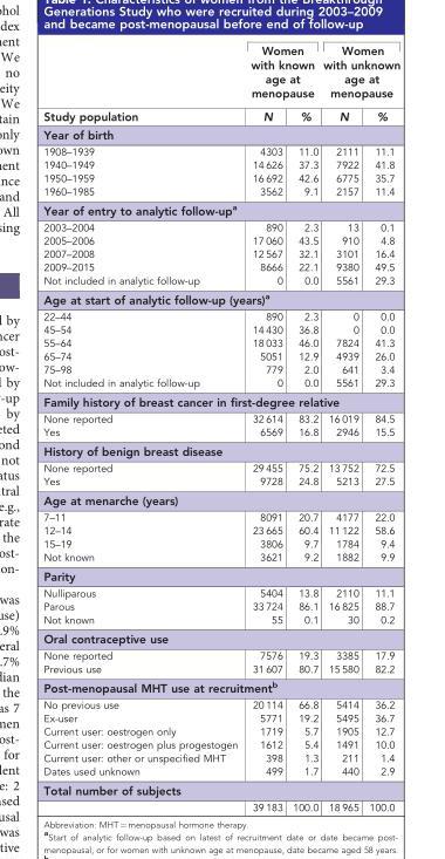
<table><thead><tr><td rowspan="2">Study population</td><td colspan="2">Women with known age at menopause</td><td colspan="2">Women with unknown age at menopause</td></tr><tr><td>N</td><td>%</td><td>N</td><td>%</td></tr></thead><tbody><tr><td colspan="5">Year of birth</td></tr><tr><td>1908–1939</td><td>4303</td><td>11.0</td><td>2111</td><td>11.1</td></tr><tr><td>1940–1949</td><td>14 626</td><td>37.3</td><td>7922</td><td>41.8</td></tr><tr><td>1950–1959</td><td>16 692</td><td>42.6</td><td>6775</td><td>35.7</td></tr><tr><td>1960–1985</td><td>3562</td><td>9.1</td><td>2157</td><td>11.4</td></tr><tr><td colspan="5">Year of entry to analytic follow-up<sup>a</sup></td></tr><tr><td>2003–2004</td><td>890</td><td>2.3</td><td>13</td><td>0.1</td></tr><tr><td>2005–2006</td><td>17 060</td><td>43.5</td><td>910</td><td>4.8</td></tr><tr><td>2007–2008</td><td>12 567</td><td>32.1</td><td>3101</td><td>16.4</td></tr><tr><td>2009–2015</td><td>8666</td><td>22.1</td><td>9380</td><td>49.5</td></tr><tr><td>Not included in analytic follow-up</td><td>0</td><td>0.0</td><td>5561</td><td>29.3</td></tr><tr><td colspan="5">Age at start of analytic follow-up (years)<sup>a</sup></td></tr><tr><td>22–44</td><td>890</td><td>2.3</td><td>0</td><td>0.0</td></tr><tr><td>45–54</td><td>14 430</td><td>36.8</td><td>0</td><td>0.0</td></tr><tr><td>55–64</td><td>18 033</td><td>46.0</td><td>7824</td><td>41.3</td></tr><tr><td>65–74</td><td>5051</td><td>12.9</td><td>4939</td><td>26.0</td></tr><tr><td>75–98</td><td>779</td><td>2.0</td><td>641</td><td>3.4</td></tr><tr><td>Not included in analytic follow-up</td><td>0</td><td>0.0</td><td>5561</td><td>29.3</td></tr><tr><td colspan="5">Family history of breast cancer in first-degree relative</td></tr><tr><td>None reported</td><td>32 614</td><td>83.2</td><td>16 019</td><td>84.5</td></tr><tr><td>Yes</td><td>6569</td><td>16.8</td><td>2946</td><td>15.5</td></tr><tr><td colspan="5">History of benign breast disease</td></tr><tr><td>None reported</td><td>29 455</td><td>75.2</td><td>13 752</td><td>72.5</td></tr><tr><td>Yes</td><td>9728</td><td>24.8</td><td>5213</td><td>27.5</td></tr><tr><td colspan="5">Age at menarche (years)</td></tr><tr><td>7–11</td><td>8091</td><td>20.7</td><td>4177</td><td>22.0</td></tr><tr><td>12–14</td><td>23 665</td><td>60.4</td><td>11 122</td><td>58.6</td></tr><tr><td>15–19</td><td>3806</td><td>9.7</td><td>1784</td><td>9.4</td></tr><tr><td>Not known</td><td>3621</td><td>9.2</td><td>1882</td><td>9.9</td></tr><tr><td colspan="5">Parity</td></tr><tr><td>Nulliparous</td><td>5404</td><td>13.8</td><td>2110</td><td>11.1</td></tr><tr><td>Parous</td><td>33 724</td><td>86.1</td><td>16 825</td><td>88.7</td></tr><tr><td>Not known</td><td>55</td><td>0.1</td><td>30</td><td>0.2</td></tr><tr><td colspan="5">Oral contraceptive use</td></tr><tr><td>None reported</td><td>7576</td><td>19.3</td><td>3385</td><td>17.9</td></tr><tr><td>Previous use</td><td>31 607</td><td>80.7</td><td>15 580</td><td>82.2</td></tr><tr><td colspan="5">Post-menopausal MHT use at recruitment<sup>b</sup></td></tr><tr><td>No previous use</td><td>20 114</td><td>66.8</td><td>5414</td><td>36.2</td></tr><tr><td>Ex-user</td><td>5771</td><td>19.2</td><td>5495</td><td>36.7</td></tr><tr><td>Current user: oestrogen only</td><td>1719</td><td>5.7</td><td>1905</td><td>12.7</td></tr><tr><td>Current user: oestrogen plus progestogen</td><td>1612</td><td>5.4</td><td>1491</td><td>10.0</td></tr><tr><td>Current user: other or unspecified MHT</td><td>398</td><td>1.3</td><td>211</td><td>1.4</td></tr><tr><td>Dates used unknown</td><td>499</td><td>1.7</td><td>440</td><td>2.9</td></tr><tr><td colspan="5">Total number of subjects</td></tr><tr><td></td><td>39 183</td><td>100.0</td><td>18 965</td><td>100.0</td></tr></tbody></table>